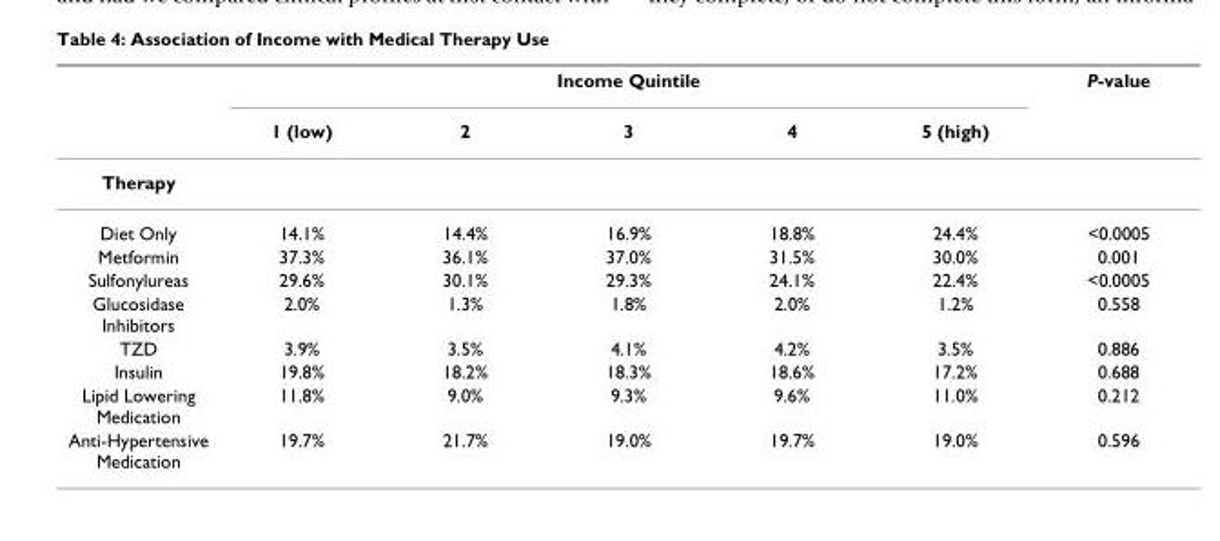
<table><thead><tr><td rowspan="2"></td><td colspan="5">Income Quintile</td><td rowspan="2">P-value</td></tr><tr><td>1 (low)</td><td>2</td><td>3</td><td>4</td><td>5 (high)</td></tr></thead><tbody><tr><td colspan="7">Therapy</td></tr><tr><td>Diet Only</td><td>14.1%</td><td>14.4%</td><td>16.9%</td><td>18.8%</td><td>24.4%</td><td>&lt;0.0005</td></tr><tr><td>Metformin</td><td>37.3%</td><td>36.1%</td><td>37.0%</td><td>31.5%</td><td>30.0%</td><td>0.001</td></tr><tr><td>Sulfonylureas</td><td>29.6%</td><td>30.1%</td><td>29.3%</td><td>24.1%</td><td>22.4%</td><td>&lt;0.0005</td></tr><tr><td>Glucosidase Inhibitors</td><td>2.0%</td><td>1.3%</td><td>1.8%</td><td>2.0%</td><td>1.2%</td><td>0.558</td></tr><tr><td>TZD</td><td>3.9%</td><td>3.5%</td><td>4.1%</td><td>4.2%</td><td>3.5%</td><td>0.886</td></tr><tr><td>Insulin</td><td>19.8%</td><td>18.2%</td><td>18.3%</td><td>18.6%</td><td>17.2%</td><td>0.688</td></tr><tr><td>Lipid Lowering Medication</td><td>11.8%</td><td>9.0%</td><td>9.3%</td><td>9.6%</td><td>11.0%</td><td>0.212</td></tr><tr><td>Anti-Hypertensive Medication</td><td>19.7%</td><td>21.7%</td><td>19.0%</td><td>19.7%</td><td>19.0%</td><td>0.596</td></tr></tbody></table>